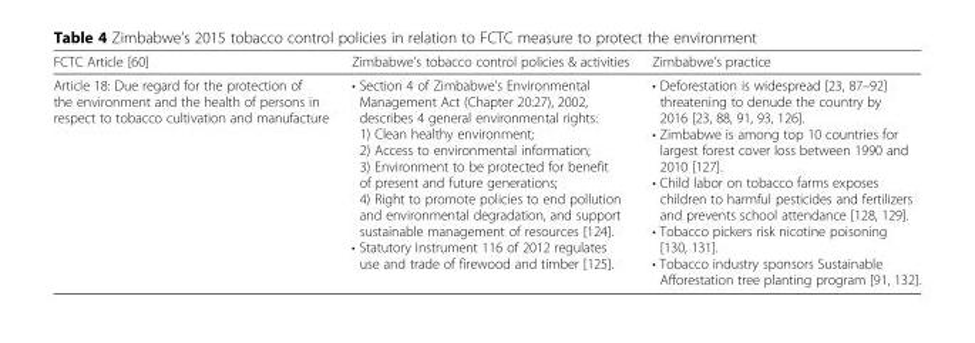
<table><thead><tr><td>FCTC Article [60]</td><td>Zimbabwe’s tobacco control policies &amp; activities</td><td>Zimbabwe’s practice</td></tr></thead><tbody><tr><td>Article 18: Due regard for the protection of the environment and the health of persons in respect to tobacco cultivation and manufacture</td><td>• Section 4 of Zimbabwe’s Environmental Management Act (Chapter 20:27), 2002, describes 4 general environmental rights: 1) Clean healthy environment; 2) Access to environmental information; 3) Environment to be protected for benefit of present and future generations; 4) Right to promote policies to end pollution and environmental degradation, and support sustainable management of resources [124]. • Statutory Instrument 116 of 2012 regulates use and trade of firewood and timber [125].</td><td>• Deforestation is widespread [23, 87–92] threatening to denude the country by 2016 [23, 88, 91, 93, 126]. • Zimbabwe is among top 10 countries for largest forest cover loss between 1990 and 2010 [127]. • Child labor on tobacco farms exposes children to harmful pesticides and fertilizers and prevents school attendance [128, 129]. • Tobacco pickers risk nicotine poisoning [130, 131]. • Tobacco industry sponsors Sustainable Afforestation tree planting program [91, 132].</td></tr></tbody></table>